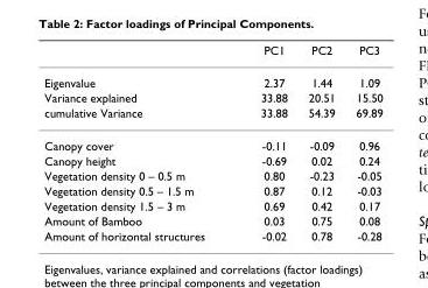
<table><thead><tr><td></td><td>PC1</td><td>PC2</td><td>PC3</td></tr></thead><tbody><tr><td>Eigenvalue</td><td>2.37</td><td>1.44</td><td>1.09</td></tr><tr><td>Variance explained</td><td>33.88</td><td>20.51</td><td>15.50</td></tr><tr><td>cumulative Variance</td><td>33.88</td><td>54.39</td><td>69.89</td></tr><tr><td>Canopy cover</td><td>-0.11</td><td>-0.09</td><td>0.96</td></tr><tr><td>Canopy height</td><td>-0.69</td><td>0.02</td><td>0.24</td></tr><tr><td>Vegetation density 0 – 0.5 m</td><td>0.80</td><td>-0.23</td><td>-0.05</td></tr><tr><td>Vegetation density 0.5 – 1.5 m</td><td>0.87</td><td>0.12</td><td>-0.03</td></tr><tr><td>Vegetation density 1.5 – 3 m</td><td>0.69</td><td>0.42</td><td>0.17</td></tr><tr><td>Amount of Bamboo</td><td>0.03</td><td>0.75</td><td>0.08</td></tr><tr><td>Amount of horizontal structures</td><td>-0.02</td><td>0.78</td><td>-0.28</td></tr></tbody></table>